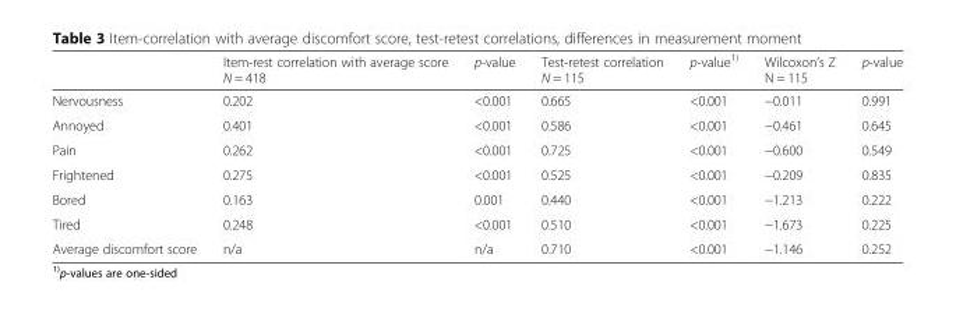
<table><thead><tr><td></td><td>Item-rest correlation with average score N = 418</td><td>p-value</td><td>Test-retest correlation N = 115</td><td>p-value<sup>1)</sup></td><td>Wilcoxon’s Z N = 115</td><td>p-value</td></tr></thead><tbody><tr><td>Nervousness</td><td>0.202</td><td>&lt;0.001</td><td>0.665</td><td>&lt;0.001</td><td>−0.011</td><td>0.991</td></tr><tr><td>Annoyed</td><td>0.401</td><td>&lt;0.001</td><td>0.586</td><td>&lt;0.001</td><td>−0.461</td><td>0.645</td></tr><tr><td>Pain</td><td>0.262</td><td>&lt;0.001</td><td>0.725</td><td>&lt;0.001</td><td>−0.600</td><td>0.549</td></tr><tr><td>Frightened</td><td>0.275</td><td>&lt;0.001</td><td>0.525</td><td>&lt;0.001</td><td>−0.209</td><td>0.835</td></tr><tr><td>Bored</td><td>0.163</td><td>0.001</td><td>0.440</td><td>&lt;0.001</td><td>−1.213</td><td>0.222</td></tr><tr><td>Tired</td><td>0.248</td><td>&lt;0.001</td><td>0.510</td><td>&lt;0.001</td><td>−1.673</td><td>0.225</td></tr><tr><td>Average discomfort score</td><td>n/a</td><td>n/a</td><td>0.710</td><td>&lt;0.001</td><td>−1.146</td><td>0.252</td></tr></tbody></table>